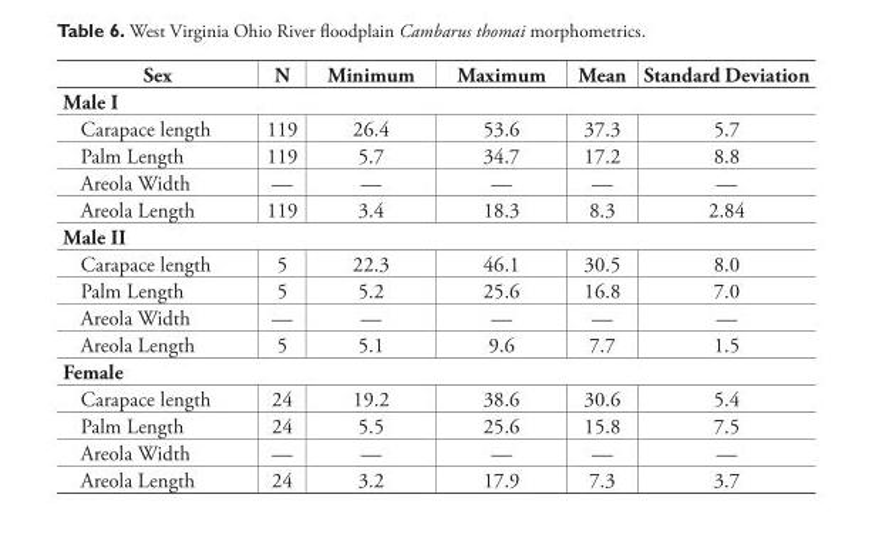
<table><thead><tr><td>Sex</td><td>N</td><td>Minimum</td><td>Maximum</td><td>Mean</td><td>Standard Deviation</td></tr></thead><tbody><tr><td colspan="6">Male I</td></tr><tr><td>Carapace length</td><td>119</td><td>26.4</td><td>53.6</td><td>37.3</td><td>5.7</td></tr><tr><td>Palm Length</td><td>119</td><td>5.7</td><td>34.7</td><td>17.2</td><td>8.8</td></tr><tr><td>Areola Width</td><td>—</td><td>—</td><td>—</td><td>—</td><td>—</td></tr><tr><td>Areola Length</td><td>119</td><td>3.4</td><td>18.3</td><td>8.3</td><td>2.84</td></tr><tr><td colspan="6">Male II</td></tr><tr><td>Carapace length</td><td>5</td><td>22.3</td><td>46.1</td><td>30.5</td><td>8.0</td></tr><tr><td>Palm Length</td><td>5</td><td>5.2</td><td>25.6</td><td>16.8</td><td>7.0</td></tr><tr><td>Areola Width</td><td>—</td><td>—</td><td>—</td><td>—</td><td>—</td></tr><tr><td>Areola Length</td><td>5</td><td>5.1</td><td>9.6</td><td>7.7</td><td>1.5</td></tr><tr><td colspan="6">Female</td></tr><tr><td>Carapace length</td><td>24</td><td>19.2</td><td>38.6</td><td>30.6</td><td>5.4</td></tr><tr><td>Palm Length</td><td>24</td><td>5.5</td><td>25.6</td><td>15.8</td><td>7.5</td></tr><tr><td>Areola Width</td><td>—</td><td>—</td><td>—</td><td>—</td><td>—</td></tr><tr><td>Areola Length</td><td>24</td><td>3.2</td><td>17.9</td><td>7.3</td><td>3.7</td></tr></tbody></table>